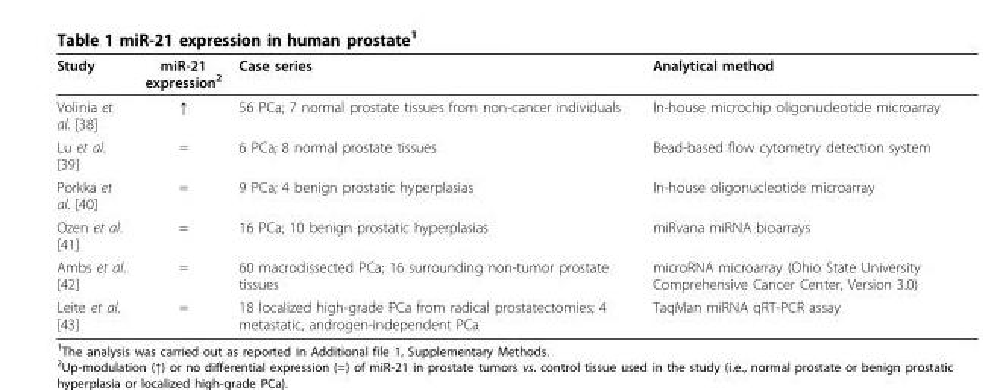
<table><thead><tr><td>Study</td><td>miR-21 expression<sup>2</sup></td><td>Case series</td><td>Analytical method</td></tr></thead><tbody><tr><td>Volinia et al. [38]</td><td>↑</td><td>56 PCa; 7 normal prostate tissues from non-cancer individuals</td><td>In-house microchip oligonucleotide microarray</td></tr><tr><td>Lu et al. [39]</td><td>=</td><td>6 PCa; 8 normal prostate tissues</td><td>Bead-based flow cytometry detection system</td></tr><tr><td>Porkka et al. [40]</td><td>=</td><td>9 PCa; 4 benign prostatic hyperplasias</td><td>In-house oligonucleotide microarray</td></tr><tr><td>Ozen et al. [41]</td><td>=</td><td>16 PCa; 10 benign prostatic hyperplasias</td><td>miRvana miRNA bioarrays</td></tr><tr><td>Ambs et al. [42]</td><td>=</td><td>60 macrodissected PCa; 16 surrounding non-tumor prostate tissues</td><td>microRNA microarray (Ohio State University Comprehensive Cancer Center, Version 3.0)</td></tr><tr><td>Leite et al. [43]</td><td>=</td><td>18 localized high-grade PCa from radical prostatectomies; 4 metastatic, androgen-independent PCa</td><td>TaqMan miRNA qRT-PCR assay</td></tr></tbody></table>